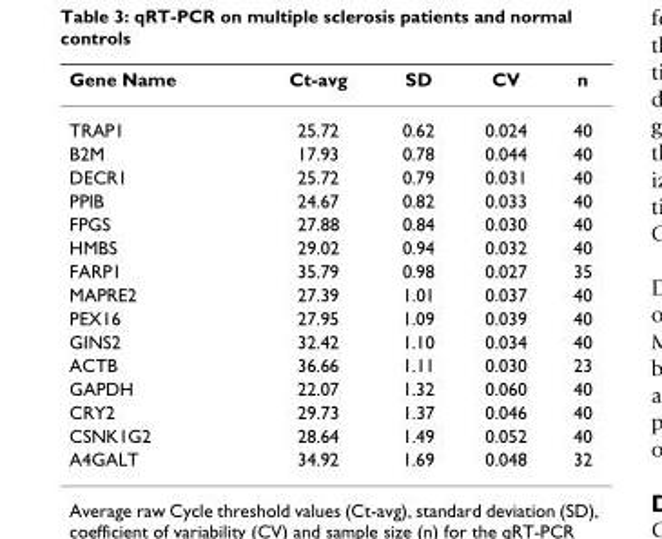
<table><thead><tr><td>Gene Name</td><td>Ct-avg</td><td>SD</td><td>CV</td><td>n</td></tr></thead><tbody><tr><td>TRAP1</td><td>25.72</td><td>0.62</td><td>0.024</td><td>40</td></tr><tr><td>B2M</td><td>17.93</td><td>0.78</td><td>0.044</td><td>40</td></tr><tr><td>DECR1</td><td>25.72</td><td>0.79</td><td>0.031</td><td>40</td></tr><tr><td>PPIB</td><td>24.67</td><td>0.82</td><td>0.033</td><td>40</td></tr><tr><td>FPGS</td><td>27.88</td><td>0.84</td><td>0.030</td><td>40</td></tr><tr><td>HMBS</td><td>29.02</td><td>0.94</td><td>0.032</td><td>40</td></tr><tr><td>FARP1</td><td>35.79</td><td>0.98</td><td>0.027</td><td>35</td></tr><tr><td>MAPRE2</td><td>27.39</td><td>1.01</td><td>0.037</td><td>40</td></tr><tr><td>PEX16</td><td>27.95</td><td>1.09</td><td>0.039</td><td>40</td></tr><tr><td>GINS2</td><td>32.42</td><td>1.10</td><td>0.034</td><td>40</td></tr><tr><td>ACTB</td><td>36.66</td><td>1.11</td><td>0.030</td><td>23</td></tr><tr><td>GAPDH</td><td>22.07</td><td>1.32</td><td>0.060</td><td>40</td></tr><tr><td>CRY2</td><td>29.73</td><td>1.37</td><td>0.046</td><td>40</td></tr><tr><td>CSNK1G2</td><td>28.64</td><td>1.49</td><td>0.052</td><td>40</td></tr><tr><td>A4GALT</td><td>34.92</td><td>1.69</td><td>0.048</td><td>32</td></tr></tbody></table>